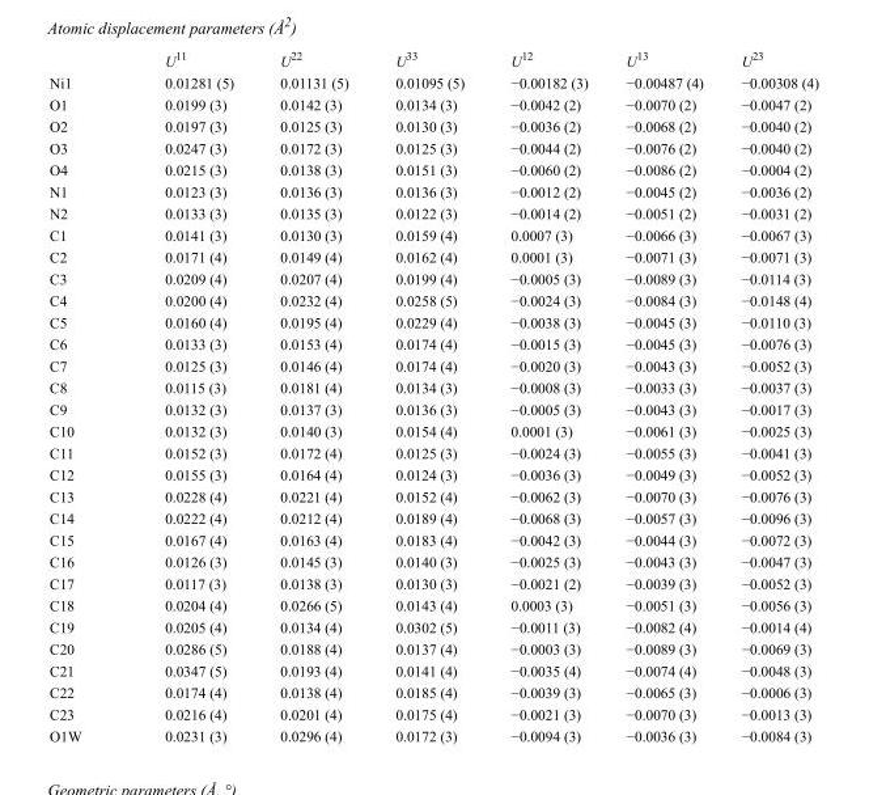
<table><thead><tr><td></td><td>U<sup>11</sup></td><td>U<sup>22</sup></td><td>U<sup>33</sup></td><td>U<sup>12</sup></td><td>U<sup>13</sup></td><td>U<sup>23</sup></td></tr></thead><tbody><tr><td>Ni1</td><td>0.01281 (5)</td><td>0.01131 (5)</td><td>0.01095 (5)</td><td>−0.00182 (3)</td><td>−0.00487 (4)</td><td>−0.00308 (4)</td></tr><tr><td>O1</td><td>0.0199 (3)</td><td>0.0142 (3)</td><td>0.0134 (3)</td><td>−0.0042 (2)</td><td>−0.0070 (2)</td><td>−0.0047 (2)</td></tr><tr><td>O2</td><td>0.0197 (3)</td><td>0.0125 (3)</td><td>0.0130 (3)</td><td>−0.0036 (2)</td><td>−0.0068 (2)</td><td>−0.0040 (2)</td></tr><tr><td>O3</td><td>0.0247 (3)</td><td>0.0172 (3)</td><td>0.0125 (3)</td><td>−0.0044 (2)</td><td>−0.0076 (2)</td><td>−0.0040 (2)</td></tr><tr><td>O4</td><td>0.0215 (3)</td><td>0.0138 (3)</td><td>0.0151 (3)</td><td>−0.0060 (2)</td><td>−0.0086 (2)</td><td>−0.0004 (2)</td></tr><tr><td>N1</td><td>0.0123 (3)</td><td>0.0136 (3)</td><td>0.0136 (3)</td><td>−0.0012 (2)</td><td>−0.0045 (2)</td><td>−0.0036 (2)</td></tr><tr><td>N2</td><td>0.0133 (3)</td><td>0.0135 (3)</td><td>0.0122 (3)</td><td>−0.0014 (2)</td><td>−0.0051 (2)</td><td>−0.0031 (2)</td></tr><tr><td>C1</td><td>0.0141 (3)</td><td>0.0130 (3)</td><td>0.0159 (4)</td><td>0.0007 (3)</td><td>−0.0066 (3)</td><td>−0.0067 (3)</td></tr><tr><td>C2</td><td>0.0171 (4)</td><td>0.0149 (4)</td><td>0.0162 (4)</td><td>0.0001 (3)</td><td>−0.0071 (3)</td><td>−0.0071 (3)</td></tr><tr><td>C3</td><td>0.0209 (4)</td><td>0.0207 (4)</td><td>0.0199 (4)</td><td>−0.0005 (3)</td><td>−0.0089 (3)</td><td>−0.0114 (3)</td></tr><tr><td>C4</td><td>0.0200 (4)</td><td>0.0232 (4)</td><td>0.0258 (5)</td><td>−0.0024 (3)</td><td>−0.0084 (3)</td><td>−0.0148 (4)</td></tr><tr><td>C5</td><td>0.0160 (4)</td><td>0.0195 (4)</td><td>0.0229 (4)</td><td>−0.0038 (3)</td><td>−0.0045 (3)</td><td>−0.0110 (3)</td></tr><tr><td>C6</td><td>0.0133 (3)</td><td>0.0153 (4)</td><td>0.0174 (4)</td><td>−0.0015 (3)</td><td>−0.0045 (3)</td><td>−0.0076 (3)</td></tr><tr><td>C7</td><td>0.0125 (3)</td><td>0.0146 (4)</td><td>0.0174 (4)</td><td>−0.0020 (3)</td><td>−0.0043 (3)</td><td>−0.0052 (3)</td></tr><tr><td>C8</td><td>0.0115 (3)</td><td>0.0181 (4)</td><td>0.0134 (3)</td><td>−0.0008 (3)</td><td>−0.0033 (3)</td><td>−0.0037 (3)</td></tr><tr><td>C9</td><td>0.0132 (3)</td><td>0.0137 (3)</td><td>0.0136 (3)</td><td>−0.0005 (3)</td><td>−0.0043 (3)</td><td>−0.0017 (3)</td></tr><tr><td>C10</td><td>0.0132 (3)</td><td>0.0140 (3)</td><td>0.0154 (4)</td><td>0.0001 (3)</td><td>−0.0061 (3)</td><td>−0.0025 (3)</td></tr><tr><td>C11</td><td>0.0152 (3)</td><td>0.0172 (4)</td><td>0.0125 (3)</td><td>−0.0024 (3)</td><td>−0.0055 (3)</td><td>−0.0041 (3)</td></tr><tr><td>C12</td><td>0.0155 (3)</td><td>0.0164 (4)</td><td>0.0124 (3)</td><td>−0.0036 (3)</td><td>−0.0049 (3)</td><td>−0.0052 (3)</td></tr><tr><td>C13</td><td>0.0228 (4)</td><td>0.0221 (4)</td><td>0.0152 (4)</td><td>−0.0062 (3)</td><td>−0.0070 (3)</td><td>−0.0076 (3)</td></tr><tr><td>C14</td><td>0.0222 (4)</td><td>0.0212 (4)</td><td>0.0189 (4)</td><td>−0.0068 (3)</td><td>−0.0057 (3)</td><td>−0.0096 (3)</td></tr><tr><td>C15</td><td>0.0167 (4)</td><td>0.0163 (4)</td><td>0.0183 (4)</td><td>−0.0042 (3)</td><td>−0.0044 (3)</td><td>−0.0072 (3)</td></tr><tr><td>C16</td><td>0.0126 (3)</td><td>0.0145 (3)</td><td>0.0140 (3)</td><td>−0.0025 (3)</td><td>−0.0043 (3)</td><td>−0.0047 (3)</td></tr><tr><td>C17</td><td>0.0117 (3)</td><td>0.0138 (3)</td><td>0.0130 (3)</td><td>−0.0021 (2)</td><td>−0.0039 (3)</td><td>−0.0052 (3)</td></tr><tr><td>C18</td><td>0.0204 (4)</td><td>0.0266 (5)</td><td>0.0143 (4)</td><td>0.0003 (3)</td><td>−0.0051 (3)</td><td>−0.0056 (3)</td></tr><tr><td>C19</td><td>0.0205 (4)</td><td>0.0134 (4)</td><td>0.0302 (5)</td><td>−0.0011 (3)</td><td>−0.0082 (4)</td><td>−0.0014 (4)</td></tr><tr><td>C20</td><td>0.0286 (5)</td><td>0.0188 (4)</td><td>0.0137 (4)</td><td>−0.0003 (3)</td><td>−0.0089 (3)</td><td>−0.0069 (3)</td></tr><tr><td>C21</td><td>0.0347 (5)</td><td>0.0193 (4)</td><td>0.0141 (4)</td><td>−0.0035 (4)</td><td>−0.0074 (4)</td><td>−0.0048 (3)</td></tr><tr><td>C22</td><td>0.0174 (4)</td><td>0.0138 (4)</td><td>0.0185 (4)</td><td>−0.0039 (3)</td><td>−0.0065 (3)</td><td>−0.0006 (3)</td></tr><tr><td>C23</td><td>0.0216 (4)</td><td>0.0201 (4)</td><td>0.0175 (4)</td><td>−0.0021 (3)</td><td>−0.0070 (3)</td><td>−0.0013 (3)</td></tr><tr><td>O1W</td><td>0.0231 (3)</td><td>0.0296 (4)</td><td>0.0172 (3)</td><td>−0.0094 (3)</td><td>−0.0036 (3)</td><td>−0.0084 (3)</td></tr></tbody></table>